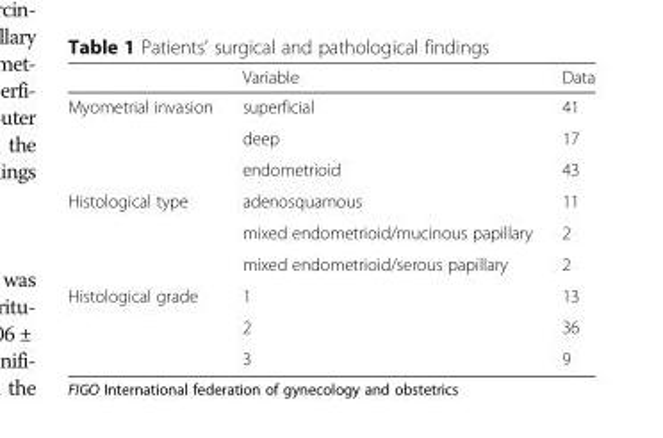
<table><thead><tr><td></td><td>Variable</td><td>Data</td></tr></thead><tbody><tr><td rowspan="3">Myometrial invasion</td><td>superficial</td><td>41</td></tr><tr><td>deep</td><td>17</td></tr><tr><td>endometrioid</td><td>43</td></tr><tr><td rowspan="3">Histological type</td><td>adenosquamous</td><td>11</td></tr><tr><td>mixed endometrioid/mucinous papillary</td><td>2</td></tr><tr><td>mixed endometrioid/serous papillary</td><td>2</td></tr><tr><td rowspan="3">Histological grade</td><td>1</td><td>13</td></tr><tr><td>2</td><td>36</td></tr><tr><td>3</td><td>9</td></tr></tbody></table>